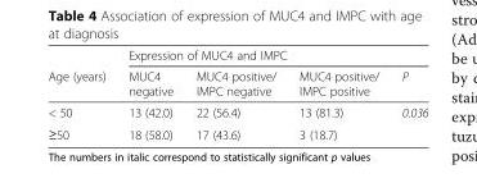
<table><thead><tr><td rowspan="2">Age (years)</td><td colspan="4">Expression of MUC4 and IMPC</td></tr><tr><td>MUC4 negative</td><td>MUC4 positive/ IMPC negative</td><td>MUC4 positive/ IMPC positive</td><td>P</td></tr></thead><tbody><tr><td>&lt; 50</td><td>13 (42.0)</td><td>22 (56.4)</td><td>13 (81.3)</td><td>0.036</td></tr><tr><td>≥50</td><td>18 (58.0)</td><td>17 (43.6)</td><td>3 (18.7)</td><td></td></tr></tbody></table>